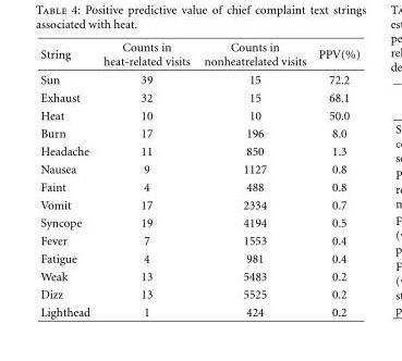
<table><thead><tr><td>String</td><td>Counts in heat-related visits</td><td>Counts in nonheatrelated visits</td><td>PPV(%)</td></tr></thead><tbody><tr><td>Sun</td><td>39</td><td>15</td><td>72.2</td></tr><tr><td>Exhaust</td><td>32</td><td>15</td><td>68.1</td></tr><tr><td>Heat</td><td>10</td><td>10</td><td>50.0</td></tr><tr><td>Burn</td><td>17</td><td>196</td><td>8.0</td></tr><tr><td>Headache</td><td>11</td><td>850</td><td>1.3</td></tr><tr><td>Nausea</td><td>9</td><td>1127</td><td>0.8</td></tr><tr><td>Faint</td><td>4</td><td>488</td><td>0.8</td></tr><tr><td>Vomit</td><td>17</td><td>2334</td><td>0.7</td></tr><tr><td>Syncope</td><td>19</td><td>4194</td><td>0.5</td></tr><tr><td>Fever</td><td>7</td><td>1553</td><td>0.4</td></tr><tr><td>Fatigue</td><td>4</td><td>981</td><td>0.4</td></tr><tr><td>Weak</td><td>13</td><td>5483</td><td>0.2</td></tr><tr><td>Dizz</td><td>13</td><td>5525</td><td>0.2</td></tr><tr><td>Lighthead</td><td>1</td><td>424</td><td>0.2</td></tr></tbody></table>